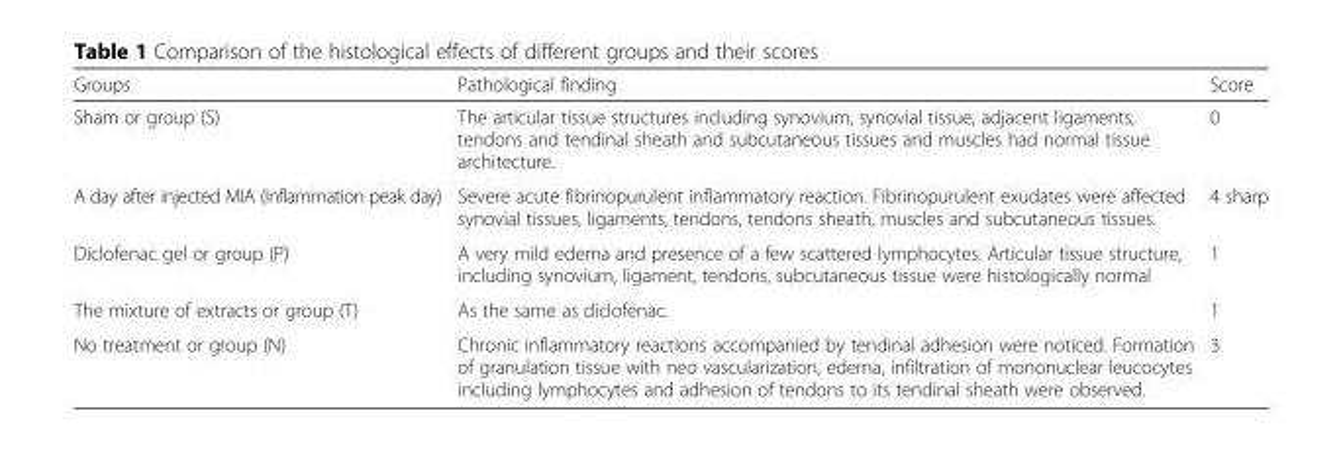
<table><thead><tr><td>Groups</td><td>Pathological finding</td><td>Score</td></tr></thead><tbody><tr><td>Sham or group (S)</td><td>The articular tissue structures including synovium, synovial tissue, adjacent ligaments, tendons and tendinal sheath and subcutaneous tissues and muscles had normal tissue architecture.</td><td>0</td></tr><tr><td>A day after injected MIA (Inflammation peak day)</td><td>Severe acute fibrinopurulent inflammatory reaction. Fibrinopurulent exudates were affected synovial tissues, ligaments, tendons, tendons sheath, muscles and subcutaneous tissues.</td><td>4 sharp</td></tr><tr><td>Diclofenac gel or group (P)</td><td>A very mild edema and presence of a few scattered lymphocytes. Articular tissue structure, including synovium, ligament, tendons, subcutaneous tissue were histologically normal</td><td>1</td></tr><tr><td>The mixture of extracts or group (T)</td><td>As the same as diclofenac.</td><td>1</td></tr><tr><td>No treatment or group (N)</td><td>Chronic inflammatory reactions accompanied by tendinal adhesion were noticed. Formation of granulation tissue with neo vascularization, edema, infiltration of mononuclear leucocytes including lymphocytes and adhesion of tendons to its tendinal sheath were observed.</td><td>3</td></tr></tbody></table>